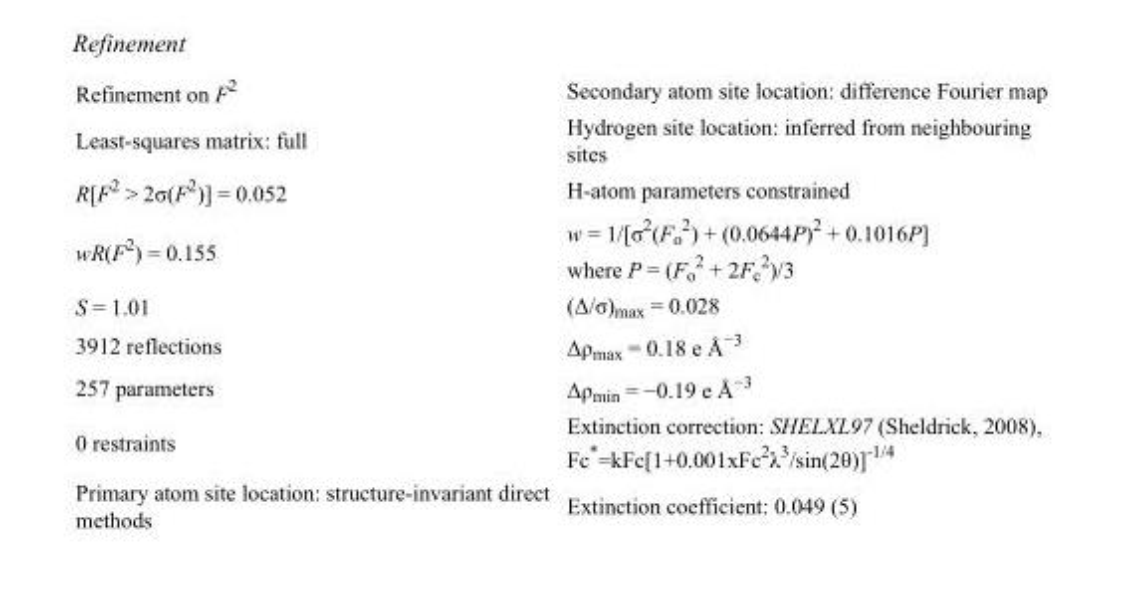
<table><tbody><tr><td>Refinement on F<sup>2</sup></td><td>Secondary atom site location: difference Fourier map</td></tr><tr><td>Least-squares matrix: full</td><td>Hydrogen site location: inferred from neighbouring sites</td></tr><tr><td>R[F<sup>2</sup> &gt; 2σ(F<sup>2</sup>)] = 0.052</td><td>H-atom parameters constrained</td></tr><tr><td>wR(F<sup>2</sup>) = 0.155</td><td>w = 1/[σ<sup>2</sup>(F<sub>o</sub> <sup>2</sup>) + (0.0644P)<sup>2</sup> + 0.1016P] where P = (F<sub>o</sub> <sup>2</sup> + 2F<sub>c</sub> <sup>2</sup>)/3</td></tr><tr><td>S = 1.01</td><td>(Δ/σ)<sub>max</sub> = 0.028</td></tr><tr><td>3912 reflections</td><td>Δρ<sub>max</sub> = 0.18 e Å<sup>−3</sup></td></tr><tr><td>257 parameters</td><td>Δρ<sub>min</sub> = −0.19 e Å<sup>−3</sup></td></tr><tr><td>0 restraints</td><td>Extinction correction: SHELXL97 (Sheldrick, 2008), Fc*=kFc[1+0.001xFc<sup>2</sup>λ<sup>3</sup>/sin(2θ)]<sup>-1/4</sup></td></tr><tr><td>Primary atom site location: structure-invariant direct methods</td><td>Extinction coefficient: 0.049 (5)</td></tr></tbody></table>